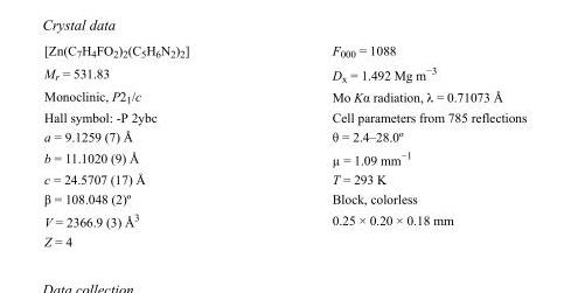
<table><tbody><tr><td>[Zn(C<sub>7</sub>H<sub>4</sub>FO<sub>2</sub>)<sub>2</sub>(C<sub>5</sub>H<sub>6</sub>N<sub>2</sub>)<sub>2</sub>]</td><td>F000 = 1088</td></tr><tr><td>M<sub>r</sub> = 531.83</td><td>D<sub>x</sub> = 1.492 Mg m<sup>−3</sup></td></tr><tr><td>Monoclinic, P2<sub>1</sub>/c</td><td>Mo Kα radiation, λ = 0.71073 Å</td></tr><tr><td>Hall symbol: -P 2ybc</td><td>Cell parameters from 785 reflections</td></tr><tr><td>a = 9.1259 (7) Å</td><td>θ = 2.4–28.0º</td></tr><tr><td>b = 11.1020 (9) Å</td><td>µ = 1.09 mm<sup>−1</sup></td></tr><tr><td>c = 24.5707 (17) Å</td><td>T = 293 K</td></tr><tr><td>β = 108.048 (2)º</td><td>Block, colorless</td></tr><tr><td>V = 2366.9 (3) Å<sup>3</sup></td><td>0.25 × 0.20 × 0.18 mm</td></tr><tr><td>Z = 4</td><td></td></tr></tbody></table>